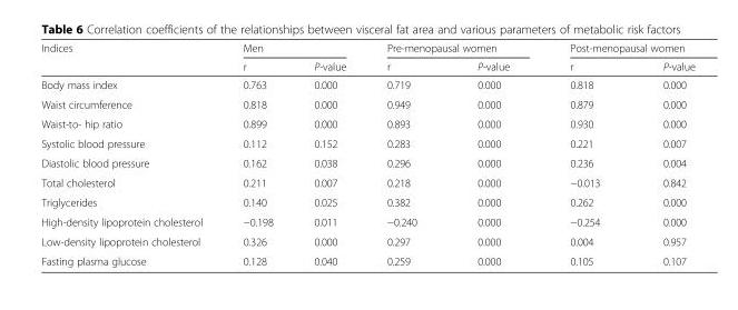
<table><thead><tr><td rowspan="2">Indices</td><td colspan="2">Men</td><td colspan="2">Pre-menopausal women</td><td colspan="2">Post-menopausal women</td></tr><tr><td>r</td><td>P-value</td><td>r</td><td>P-value</td><td>r</td><td>P-value</td></tr></thead><tbody><tr><td>Body mass index</td><td>0.763</td><td>0.000</td><td>0.719</td><td>0.000</td><td>0.818</td><td>0.000</td></tr><tr><td>Waist circumference</td><td>0.818</td><td>0.000</td><td>0.949</td><td>0.000</td><td>0.879</td><td>0.000</td></tr><tr><td>Waist-to- hip ratio</td><td>0.899</td><td>0.000</td><td>0.893</td><td>0.000</td><td>0.930</td><td>0.000</td></tr><tr><td>Systolic blood pressure</td><td>0.112</td><td>0.152</td><td>0.283</td><td>0.000</td><td>0.221</td><td>0.007</td></tr><tr><td>Diastolic blood pressure</td><td>0.162</td><td>0.038</td><td>0.296</td><td>0.000</td><td>0.236</td><td>0.004</td></tr><tr><td>Total cholesterol</td><td>0.211</td><td>0.007</td><td>0.218</td><td>0.000</td><td>−0.013</td><td>0.842</td></tr><tr><td>Triglycerides</td><td>0.140</td><td>0.025</td><td>0.382</td><td>0.000</td><td>0.262</td><td>0.000</td></tr><tr><td>High-density lipoprotein cholesterol</td><td>−0.198</td><td>0.011</td><td>−0.240</td><td>0.000</td><td>−0.254</td><td>0.000</td></tr><tr><td>Low-density lipoprotein cholesterol</td><td>0.326</td><td>0.000</td><td>0.297</td><td>0.000</td><td>0.004</td><td>0.957</td></tr><tr><td>Fasting plasma glucose</td><td>0.128</td><td>0.040</td><td>0.259</td><td>0.000</td><td>0.105</td><td>0.107</td></tr></tbody></table>